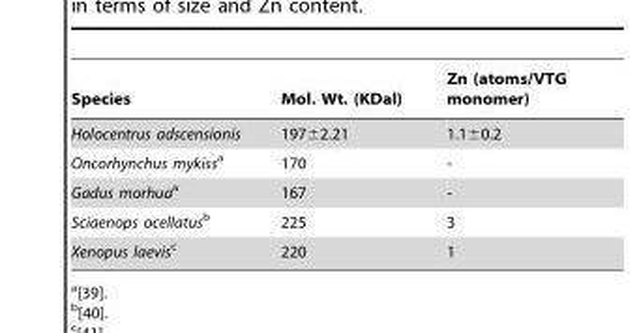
<table><thead><tr><td>Species</td><td>Mol. Wt. (KDal)</td><td>Zn (atoms/VTG monomer)</td></tr></thead><tbody><tr><td>Holocentrus adscensionis</td><td>197±2.21</td><td>1.1±0.2</td></tr><tr><td>Oncorhynchus mykissa</td><td>170</td><td>-</td></tr><tr><td>Gadus morhuaa</td><td>167</td><td>-</td></tr><tr><td>Sciaenops ocellatusb</td><td>225</td><td>3</td></tr><tr><td>Xenopus laevisc</td><td>220</td><td>1</td></tr></tbody></table>